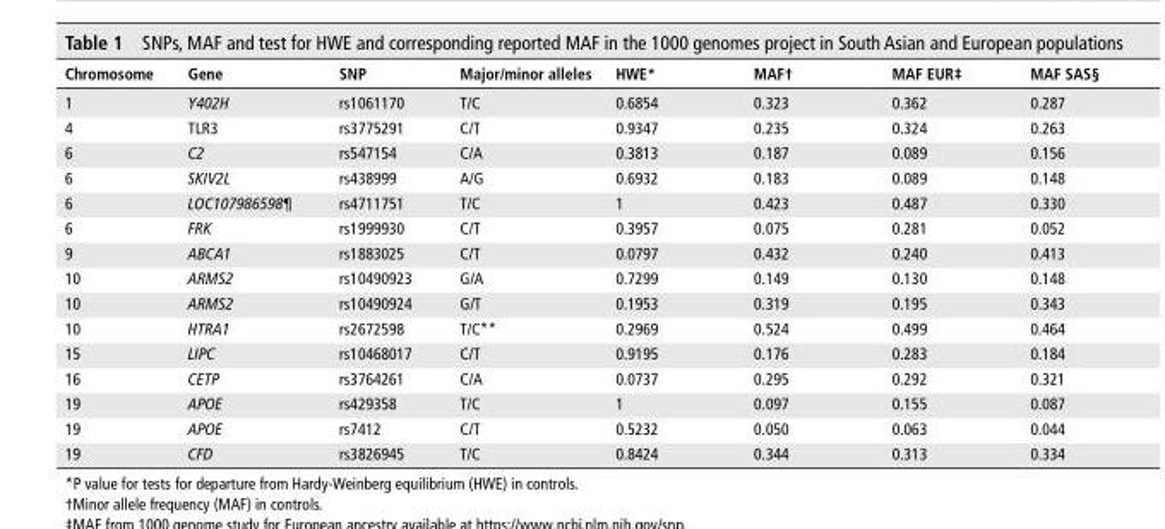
<table><thead><tr><td>Chromosome</td><td>Gene</td><td>snP</td><td>Major/minor alleles</td><td>hWe*</td><td>MAF†</td><td>MAF eur‡</td><td>MAF sAs§</td></tr></thead><tbody><tr><td>1</td><td>Y402H</td><td>rs1061170</td><td>T/C</td><td>0.6854</td><td>0.323</td><td>0.362</td><td>0.287</td></tr><tr><td>4</td><td>TLR3</td><td>rs3775291</td><td>C/T</td><td>0.9347</td><td>0.235</td><td>0.324</td><td>0.263</td></tr><tr><td>6</td><td>C2</td><td>rs547154</td><td>C/A</td><td>0.3813</td><td>0.187</td><td>0.089</td><td>0.156</td></tr><tr><td>6</td><td>SKIV2L</td><td>rs438999</td><td>A/G</td><td>0.6932</td><td>0.183</td><td>0.089</td><td>0.148</td></tr><tr><td>6</td><td>LOC107986598¶</td><td>rs4711751</td><td>T/C</td><td>1</td><td>0.423</td><td>0.487</td><td>0.330</td></tr><tr><td>6</td><td>FRK</td><td>rs1999930</td><td>C/T</td><td>0.3957</td><td>0.075</td><td>0.281</td><td>0.052</td></tr><tr><td>9</td><td>ABCA1</td><td>rs1883025</td><td>C/T</td><td>0.0797</td><td>0.432</td><td>0.240</td><td>0.413</td></tr><tr><td>10</td><td>ARMS2</td><td>rs10490923</td><td>G/A</td><td>0.7299</td><td>0.149</td><td>0.130</td><td>0.148</td></tr><tr><td>10</td><td>ARMS2</td><td>rs10490924</td><td>G/T</td><td>0.1953</td><td>0.319</td><td>0.195</td><td>0.343</td></tr><tr><td>10</td><td>HTRA1</td><td>rs2672598</td><td>T/C**</td><td>0.2969</td><td>0.524</td><td>0.499</td><td>0.464</td></tr><tr><td>15</td><td>LIPC</td><td>rs10468017</td><td>C/T</td><td>0.9195</td><td>0.176</td><td>0.283</td><td>0.184</td></tr><tr><td>16</td><td>CETP</td><td>rs3764261</td><td>C/A</td><td>0.0737</td><td>0.295</td><td>0.292</td><td>0.321</td></tr><tr><td>19</td><td>APOE</td><td>rs429358</td><td>T/C</td><td>1</td><td>0.097</td><td>0.155</td><td>0.087</td></tr><tr><td>19</td><td>APOE</td><td>rs7412</td><td>C/T</td><td>0.5232</td><td>0.050</td><td>0.063</td><td>0.044</td></tr><tr><td>19</td><td>CFD</td><td>rs3826945</td><td>T/C</td><td>0.8424</td><td>0.344</td><td>0.313</td><td>0.334</td></tr></tbody></table>